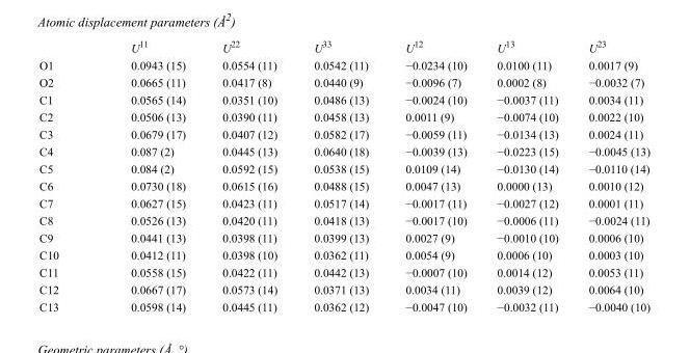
<table><thead><tr><td></td><td>U<sup>11</sup></td><td>U<sup>22</sup></td><td>U<sup>33</sup></td><td>U<sup>12</sup></td><td>U<sup>13</sup></td><td>U<sup>23</sup></td></tr></thead><tbody><tr><td>O1</td><td>0.0943 (15)</td><td>0.0554 (11)</td><td>0.0542 (11)</td><td>−0.0234 (10)</td><td>0.0100 (11)</td><td>0.0017 (9)</td></tr><tr><td>O2</td><td>0.0665 (11)</td><td>0.0417 (8)</td><td>0.0440 (9)</td><td>−0.0096 (7)</td><td>0.0002 (8)</td><td>−0.0032 (7)</td></tr><tr><td>C1</td><td>0.0565 (14)</td><td>0.0351 (10)</td><td>0.0486 (13)</td><td>−0.0024 (10)</td><td>−0.0037 (11)</td><td>0.0034 (11)</td></tr><tr><td>C2</td><td>0.0506 (13)</td><td>0.0390 (11)</td><td>0.0458 (13)</td><td>0.0011 (9)</td><td>−0.0074 (10)</td><td>0.0022 (10)</td></tr><tr><td>C3</td><td>0.0679 (17)</td><td>0.0407 (12)</td><td>0.0582 (17)</td><td>−0.0059 (11)</td><td>−0.0134 (13)</td><td>0.0024 (11)</td></tr><tr><td>C4</td><td>0.087 (2)</td><td>0.0445 (13)</td><td>0.0640 (18)</td><td>−0.0039 (13)</td><td>−0.0223 (15)</td><td>−0.0045 (13)</td></tr><tr><td>C5</td><td>0.084 (2)</td><td>0.0592 (15)</td><td>0.0538 (15)</td><td>0.0109 (14)</td><td>−0.0130 (14)</td><td>−0.0110 (14)</td></tr><tr><td>C6</td><td>0.0730 (18)</td><td>0.0615 (16)</td><td>0.0488 (15)</td><td>0.0047 (13)</td><td>0.0000 (13)</td><td>0.0010 (12)</td></tr><tr><td>C7</td><td>0.0627 (15)</td><td>0.0423 (11)</td><td>0.0517 (14)</td><td>−0.0017 (11)</td><td>−0.0027 (12)</td><td>0.0001 (11)</td></tr><tr><td>C8</td><td>0.0526 (13)</td><td>0.0420 (11)</td><td>0.0418 (13)</td><td>−0.0017 (10)</td><td>−0.0006 (11)</td><td>−0.0024 (11)</td></tr><tr><td>C9</td><td>0.0441 (13)</td><td>0.0398 (11)</td><td>0.0399 (13)</td><td>0.0027 (9)</td><td>−0.0010 (10)</td><td>0.0006 (10)</td></tr><tr><td>C10</td><td>0.0412 (11)</td><td>0.0398 (10)</td><td>0.0362 (11)</td><td>0.0054 (9)</td><td>0.0006 (10)</td><td>0.0003 (10)</td></tr><tr><td>C11</td><td>0.0558 (15)</td><td>0.0422 (11)</td><td>0.0442 (13)</td><td>−0.0007 (10)</td><td>0.0014 (12)</td><td>0.0053 (11)</td></tr><tr><td>C12</td><td>0.0667 (17)</td><td>0.0573 (14)</td><td>0.0371 (13)</td><td>0.0034 (11)</td><td>0.0039 (12)</td><td>0.0064 (10)</td></tr><tr><td>C13</td><td>0.0598 (14)</td><td>0.0445 (11)</td><td>0.0362 (12)</td><td>−0.0047 (10)</td><td>−0.0032 (11)</td><td>−0.0040 (10)</td></tr></tbody></table>